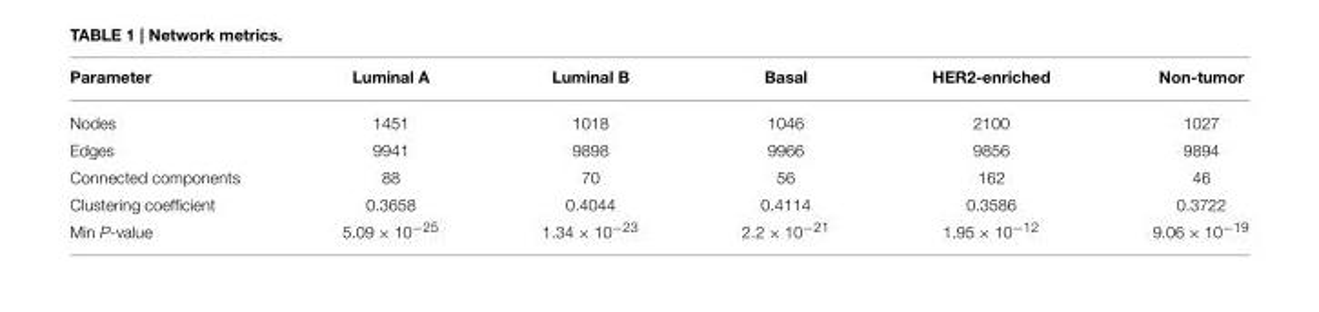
<table><thead><tr><td>Parameter</td><td>Luminal A</td><td>Luminal B</td><td>Basal</td><td>HER2-enriched</td><td>Non-tumor</td></tr></thead><tbody><tr><td>Nodes</td><td>1451</td><td>1018</td><td>1046</td><td>2100</td><td>1027</td></tr><tr><td>Edges</td><td>9941</td><td>9898</td><td>9966</td><td>9856</td><td>9894</td></tr><tr><td>Connected components</td><td>88</td><td>70</td><td>56</td><td>162</td><td>46</td></tr><tr><td>Clustering coefficient</td><td>0.3658</td><td>0.4044</td><td>0.4114</td><td>0.3586</td><td>0.3722</td></tr><tr><td>Min P-value</td><td>5.09 × 10<sup>−25</sup></td><td>1.34 × 10<sup>−23</sup></td><td>2.2 × 10<sup>−21</sup></td><td>1.95 × 10<sup>−12</sup></td><td>9.06 × 10<sup>−19</sup></td></tr></tbody></table>